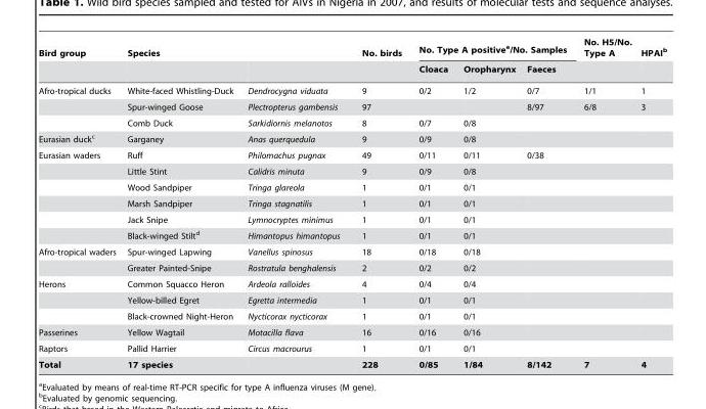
<table><thead><tr><td rowspan="2">Bird group</td><td rowspan="2">Species</td><td rowspan="2"></td><td rowspan="2">No. birds</td><td colspan="3">No. Type A positive<sup>a</sup>/No. Samples</td><td rowspan="2">No. H5/No. Type A</td><td rowspan="2">HPAI<sup>b</sup></td></tr><tr><td>Cloaca</td><td>Oropharynx</td><td>Faeces</td></tr></thead><tbody><tr><td rowspan="3">Afro-tropical ducks</td><td>White-faced Whistling-Duck</td><td>Dendrocygna viduata</td><td>9</td><td>0/2</td><td>1/2</td><td>0/7</td><td>1/1</td><td>1</td></tr><tr><td>Spur-winged Goose</td><td>Plectropterus gambensis</td><td>97</td><td></td><td></td><td>8/97</td><td>6/8</td><td>3</td></tr><tr><td>Comb Duck</td><td>Sarkidiornis melanotos</td><td>8</td><td>0/7</td><td>0/8</td><td></td><td></td><td></td></tr><tr><td>Eurasian duck<sup>c</sup></td><td>Garganey</td><td>Anas querquedula</td><td>9</td><td>0/9</td><td>0/8</td><td></td><td></td><td></td></tr><tr><td rowspan="6">Eurasian waders</td><td>Ruff</td><td>Philomachus pugnax</td><td>49</td><td>0/11</td><td>0/11</td><td>0/38</td><td></td><td></td></tr><tr><td>Little Stint</td><td>Calidris minuta</td><td>9</td><td>0/9</td><td>0/8</td><td></td><td></td><td></td></tr><tr><td>Wood Sandpiper</td><td>Tringa glareola</td><td>1</td><td>0/1</td><td>0/1</td><td></td><td></td><td></td></tr><tr><td>Marsh Sandpiper</td><td>Tringa stagnatilis</td><td>1</td><td>0/1</td><td>0/1</td><td></td><td></td><td></td></tr><tr><td>Jack Snipe</td><td>Lymnocryptes minimus</td><td>1</td><td>0/1</td><td>0/1</td><td></td><td></td><td></td></tr><tr><td>Black-winged Stilt<sup>d</sup></td><td>Himantopus himantopus</td><td>1</td><td>0/1</td><td>0/1</td><td></td><td></td><td></td></tr><tr><td rowspan="2">Afro-tropical waders</td><td>Spur-winged Lapwing</td><td>Vanellus spinosus</td><td>18</td><td>0/18</td><td>0/18</td><td></td><td></td><td></td></tr><tr><td>Greater Painted-Snipe</td><td>Rostratula benghalensis</td><td>2</td><td>0/2</td><td>0/2</td><td></td><td></td><td></td></tr><tr><td rowspan="3">Herons</td><td>Common Squacco Heron</td><td>Ardeola ralloides</td><td>4</td><td>0/4</td><td>0/4</td><td></td><td></td><td></td></tr><tr><td>Yellow-billed Egret</td><td>Egretta intermedia</td><td>1</td><td>0/1</td><td>0/1</td><td></td><td></td><td></td></tr><tr><td>Black-crowned Night-Heron</td><td>Nycticorax nycticorax</td><td>1</td><td>0/1</td><td>0/1</td><td></td><td></td><td></td></tr><tr><td>Passerines</td><td>Yellow Wagtail</td><td>Motacilla flava</td><td>16</td><td>0/16</td><td>0/16</td><td></td><td></td><td></td></tr><tr><td>Raptors</td><td>Pallid Harrier</td><td>Circus macrourus</td><td>1</td><td>0/1</td><td>0/1</td><td></td><td></td><td></td></tr><tr><td>Total</td><td>17 species</td><td></td><td>228</td><td>0/85</td><td>1/84</td><td>8/142</td><td>7</td><td>4</td></tr></tbody></table>